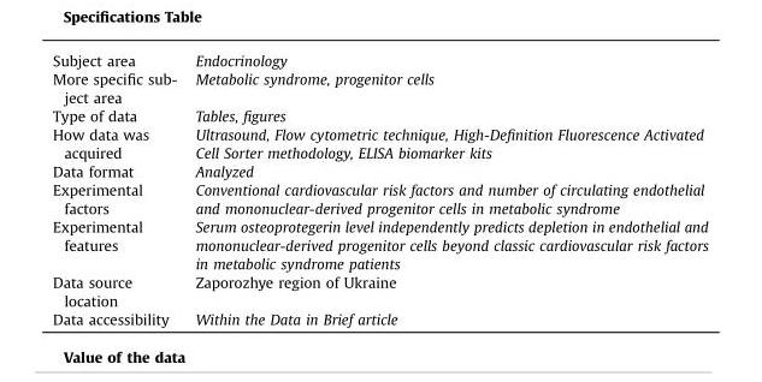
<table><tbody><tr><td>Subject area</td><td>Endocrinology</td></tr><tr><td>More specific sub- ject area</td><td>Metabolic syndrome, progenitor cells</td></tr><tr><td>Type of data</td><td>Tables, figures</td></tr><tr><td>How data was acquired</td><td>Ultrasound, Flow cytometric technique, High-Definition Fluorescence Activated Cell Sorter methodology, ELISA biomarker kits</td></tr><tr><td>Data format</td><td>Analyzed</td></tr><tr><td>Experimental factors</td><td>Conventional cardiovascular risk factors and number of circulating endothelial and mononuclear-derived progenitor cells in metabolic syndrome</td></tr><tr><td>Experimental features</td><td>Serum osteoprotegerin level independently predicts depletion in endothelial and mononuclear-derived progenitor cells beyond classic cardiovascular risk factors in metabolic syndrome patients</td></tr><tr><td>Data source location</td><td>Zaporozhye region of Ukraine</td></tr><tr><td>Data accessibility</td><td>Within the Data in Brief article</td></tr></tbody></table>